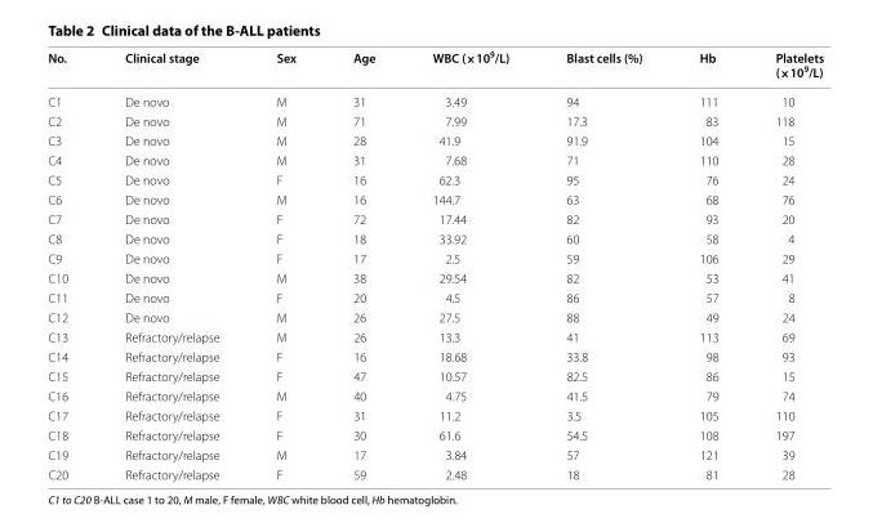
<table><thead><tr><td>No.</td><td>Clinical stage</td><td>Sex</td><td>Age</td><td>WBC (×10<sup>9</sup>/L)</td><td>Blast cells (%)</td><td>Hb</td><td>Platelets (×10<sup>9</sup>/L)</td></tr></thead><tbody><tr><td>C1</td><td>De novo</td><td>M</td><td>31</td><td>3.49</td><td>94</td><td>111</td><td>10</td></tr><tr><td>C2</td><td>De novo</td><td>M</td><td>71</td><td>7.99</td><td>17.3</td><td>83</td><td>118</td></tr><tr><td>C3</td><td>De novo</td><td>M</td><td>28</td><td>41.9</td><td>91.9</td><td>104</td><td>15</td></tr><tr><td>C4</td><td>De novo</td><td>M</td><td>31</td><td>7.68</td><td>71</td><td>110</td><td>28</td></tr><tr><td>C5</td><td>De novo</td><td>F</td><td>16</td><td>62.3</td><td>95</td><td>76</td><td>24</td></tr><tr><td>C6</td><td>De novo</td><td>M</td><td>16</td><td>144.7</td><td>63</td><td>68</td><td>76</td></tr><tr><td>C7</td><td>De novo</td><td>F</td><td>72</td><td>17.44</td><td>82</td><td>93</td><td>20</td></tr><tr><td>C8</td><td>De novo</td><td>F</td><td>18</td><td>33.92</td><td>60</td><td>58</td><td>4</td></tr><tr><td>C9</td><td>De novo</td><td>F</td><td>17</td><td>2.5</td><td>59</td><td>106</td><td>29</td></tr><tr><td>C10</td><td>De novo</td><td>M</td><td>38</td><td>29.54</td><td>82</td><td>53</td><td>41</td></tr><tr><td>C11</td><td>De novo</td><td>F</td><td>20</td><td>4.5</td><td>86</td><td>57</td><td>8</td></tr><tr><td>C12</td><td>De novo</td><td>M</td><td>26</td><td>27.5</td><td>88</td><td>49</td><td>24</td></tr><tr><td>C13</td><td>Refractory/relapse</td><td>M</td><td>26</td><td>13.3</td><td>41</td><td>113</td><td>69</td></tr><tr><td>C14</td><td>Refractory/relapse</td><td>F</td><td>16</td><td>18.68</td><td>33.8</td><td>98</td><td>93</td></tr><tr><td>C15</td><td>Refractory/relapse</td><td>F</td><td>47</td><td>10.57</td><td>82.5</td><td>86</td><td>15</td></tr><tr><td>C16</td><td>Refractory/relapse</td><td>M</td><td>40</td><td>4.75</td><td>41.5</td><td>79</td><td>74</td></tr><tr><td>C17</td><td>Refractory/relapse</td><td>F</td><td>31</td><td>11.2</td><td>3.5</td><td>105</td><td>110</td></tr><tr><td>C18</td><td>Refractory/relapse</td><td>F</td><td>30</td><td>61.6</td><td>54.5</td><td>108</td><td>197</td></tr><tr><td>C19</td><td>Refractory/relapse</td><td>M</td><td>17</td><td>3.84</td><td>57</td><td>121</td><td>39</td></tr><tr><td>C20</td><td>Refractory/relapse</td><td>F</td><td>59</td><td>2.48</td><td>18</td><td>81</td><td>28</td></tr></tbody></table>